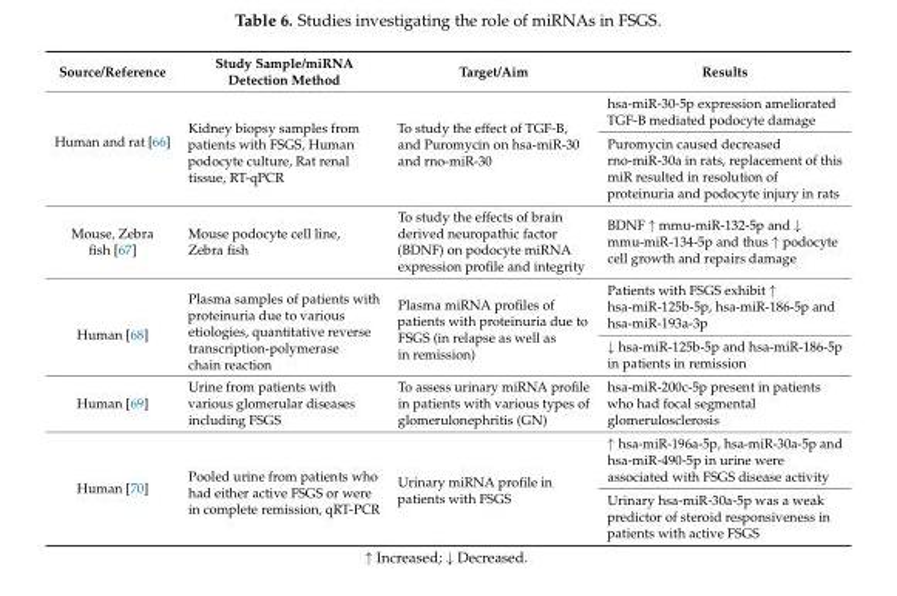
<table><thead><tr><td>Source/Reference</td><td>Study Sample/miRNA Detection Method</td><td>Target/Aim</td><td>Results</td></tr></thead><tbody><tr><td rowspan="2">Human and rat [66]</td><td rowspan="2">Kidney biopsy samples from patients with FSGS, Human podocyte culture, Rat renal tissue, RT-qPCR</td><td rowspan="2">To study the effect of TGF-B, and Puromycin on hsa-miR-30 and rno-miR-30</td><td>hsa-miR-30-5p expression ameliorated TGF-B mediated podocyte damage</td></tr><tr><td>Puromycin caused decreased rno-miR-30a in rats, replacement of this miR resulted in resolution of proteinuria and podocyte injury in rats</td></tr><tr><td>Mouse, Zebra fish [67]</td><td>Mouse podocyte cell line, Zebra fish</td><td>To study the effects of brain derived neuropathic factor (BDNF) on podocyte miRNA expression profile and integrity</td><td>BDNF ↑ mmu-miR-132-5p and ↓ mmu-miR-134-5p and thus ↑ podocyte cell growth and repairs damage</td></tr><tr><td rowspan="2">Human [68]</td><td rowspan="2">Plasma samples of patients with proteinuria due to various etiologies, quantitative reverse transcription-polymerase chain reaction</td><td rowspan="2">Plasma miRNA profiles of patients with proteinuria due to FSGS (in relapse as well as in remission)</td><td>Patients with FSGS exhibit ↑ hsa-miR-125b-5p, hsa-miR-186-5p and hsa-miR-193a-3p</td></tr><tr><td>↓ hsa-miR-125b-5p and hsa-miR-186-5p in patients in remission</td></tr><tr><td>Human [69]</td><td>Urine from patients with various glomerular diseases including FSGS</td><td>To assess urinary miRNA profile in patients with various types of glomerulonephritis (GN)</td><td>hsa-miR-200c-5p present in patients who had focal segmental glomerulosclerosis</td></tr><tr><td rowspan="2">Human [70]</td><td rowspan="2">Pooled urine from patients who had either active FSGS or were in complete remission, qRT-PCR</td><td rowspan="2">Urinary miRNA profile in patients with FSGS</td><td>↑ hsa-miR-196a-5p, hsa-miR-30a-5p and hsa-miR-490-5p in urine were associated with FSGS disease activity</td></tr><tr><td>Urinary hsa-miR-30a-5p was a weak predictor of steroid responsiveness in patients with active FSGS</td></tr></tbody></table>